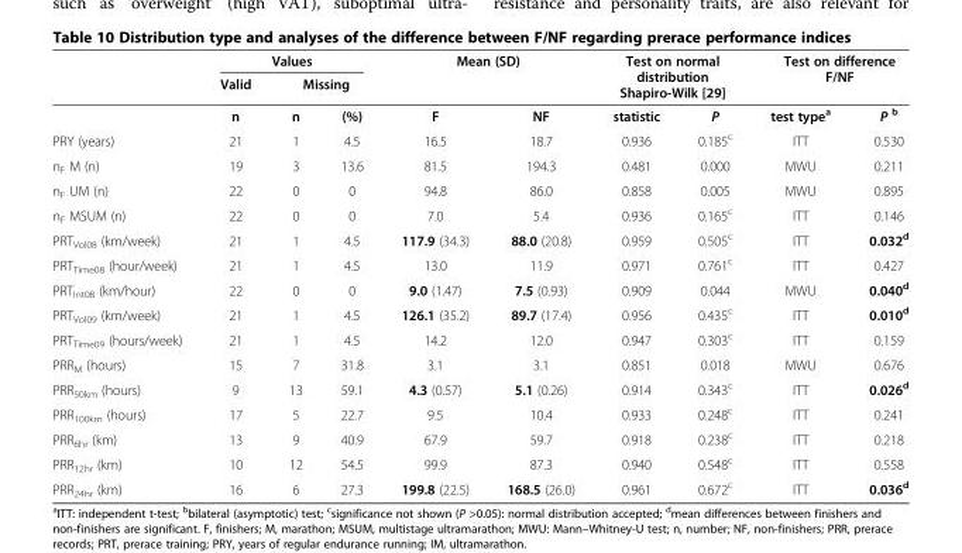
<table><thead><tr><td rowspan="3"></td><td colspan="3">Values</td><td rowspan="2" colspan="2">Mean (SD)</td><td rowspan="2" colspan="2">Test on normal distribution Shapiro-Wilk [29]</td><td rowspan="2" colspan="2">Test on difference F/NF</td></tr><tr><td rowspan="2">Valid n</td><td colspan="2">Missing</td></tr><tr><td>n</td><td>(%)</td><td>F</td><td>NF</td><td>statistic</td><td>P</td><td>test type<sup>a</sup></td><td>P <sup>b</sup></td></tr></thead><tbody><tr><td>PRY (years)</td><td>21</td><td>1</td><td>4.5</td><td>16.5</td><td>18.7</td><td>0.936</td><td>0.185<sup>c</sup></td><td>ITT</td><td>0.530</td></tr><tr><td>n<sub>F</sub> M (n)</td><td>19</td><td>3</td><td>13.6</td><td>81.5</td><td>194.3</td><td>0.481</td><td>0.000</td><td>MWU</td><td>0.211</td></tr><tr><td>n<sub>F</sub> UM (n)</td><td>22</td><td>0</td><td>0</td><td>94.8</td><td>86.0</td><td>0.858</td><td>0.005</td><td>MWU</td><td>0.895</td></tr><tr><td>n<sub>F</sub> MSUM (n)</td><td>22</td><td>0</td><td>0</td><td>7.0</td><td>5.4</td><td>0.936</td><td>0.165<sup>c</sup></td><td>ITT</td><td>0.146</td></tr><tr><td>PRT<sub>Vol08</sub> (km/week)</td><td>21</td><td>1</td><td>4.5</td><td>117.9 (34.3)</td><td>88.0 (20.8)</td><td>0.959</td><td>0.505<sup>c</sup></td><td>ITT</td><td>0.032<sup>d</sup></td></tr><tr><td>PRT<sub>Time08</sub> (hour/week)</td><td>21</td><td>1</td><td>4.5</td><td>13.0</td><td>11.9</td><td>0.971</td><td>0.761<sup>c</sup></td><td>ITT</td><td>0.427</td></tr><tr><td>PRT<sub>Int08</sub> (km/hour)</td><td>22</td><td>0</td><td>0</td><td>9.0 (1.47)</td><td>7.5 (0.93)</td><td>0.909</td><td>0.044</td><td>MWU</td><td>0.040<sup>d</sup></td></tr><tr><td>PRT<sub>Vol09</sub> (km/week)</td><td>21</td><td>1</td><td>4.5</td><td>126.1 (35.2)</td><td>89.7 (17.4)</td><td>0.956</td><td>0.435<sup>c</sup></td><td>ITT</td><td>0.010<sup>d</sup></td></tr><tr><td>PRT<sub>Time09</sub> (hours/week)</td><td>21</td><td>1</td><td>4.5</td><td>14.2</td><td>12.0</td><td>0.947</td><td>0.303<sup>c</sup></td><td>ITT</td><td>0.159</td></tr><tr><td>PRR<sub>M</sub> (hours)</td><td>15</td><td>7</td><td>31.8</td><td>3.1</td><td>3.1</td><td>0.851</td><td>0.018</td><td>MWU</td><td>0.676</td></tr><tr><td>PRR<sub>50km</sub> (hours)</td><td>9</td><td>13</td><td>59.1</td><td>4.3 (0.57)</td><td>5.1 (0.26)</td><td>0.914</td><td>0.343<sup>c</sup></td><td>ITT</td><td>0.026<sup>d</sup></td></tr><tr><td>PRR<sub>100km</sub> (hours)</td><td>17</td><td>5</td><td>22.7</td><td>9.5</td><td>10.4</td><td>0.933</td><td>0.248<sup>c</sup></td><td>ITT</td><td>0.241</td></tr><tr><td>PRR<sub>6hr</sub> (km)</td><td>13</td><td>9</td><td>40.9</td><td>67.9</td><td>59.7</td><td>0.918</td><td>0.238<sup>c</sup></td><td>ITT</td><td>0.218</td></tr><tr><td>PRR<sub>12hr</sub> (km)</td><td>10</td><td>12</td><td>54.5</td><td>99.9</td><td>87.3</td><td>0.940</td><td>0.548<sup>c</sup></td><td>ITT</td><td>0.558</td></tr><tr><td>PRR<sub>24hr</sub> (km)</td><td>16</td><td>6</td><td>27.3</td><td>199.8 (22.5)</td><td>168.5 (26.0)</td><td>0.961</td><td>0.672<sup>c</sup></td><td>ITT</td><td>0.036<sup>d</sup></td></tr></tbody></table>